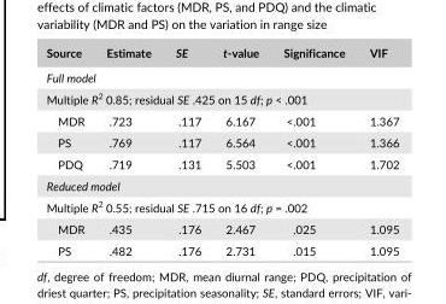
<table><thead><tr><td>Source</td><td>Estimate</td><td>SE</td><td>t- value</td><td>Significance</td><td>VIF</td></tr></thead><tbody><tr><td colspan="6">Full model</td></tr><tr><td colspan="6">Multiple R2 0.85; residual SE .425 on 15 df; p &lt; .001</td></tr><tr><td>MDR</td><td>.723</td><td>.117</td><td>6.167</td><td>&lt;.001</td><td>1.367</td></tr><tr><td>PS</td><td>.769</td><td>.117</td><td>6.564</td><td>&lt;.001</td><td>1.366</td></tr><tr><td>PDQ</td><td>.719</td><td>.131</td><td>5.503</td><td>&lt;.001</td><td>1.702</td></tr><tr><td colspan="6">Reduced model</td></tr><tr><td colspan="6">Multiple R<sup>2</sup> 0.55; residual SE .715 on 16 df; p = .002</td></tr><tr><td>MDR</td><td>.435</td><td>.176</td><td>2.467</td><td>.025</td><td>1.095</td></tr><tr><td>PS</td><td>.482</td><td>.176</td><td>2.731</td><td>.015</td><td>1.095</td></tr></tbody></table>